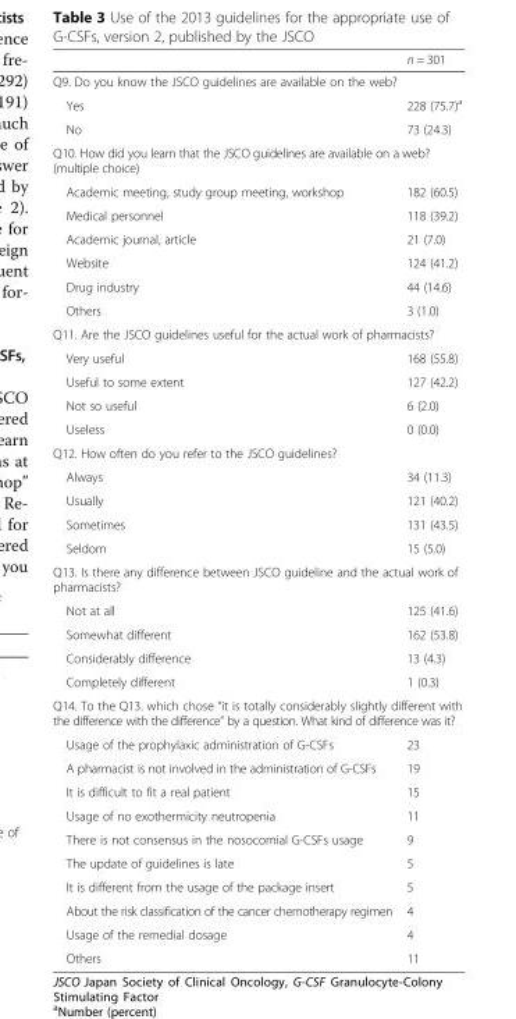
<table><thead><tr><td></td><td>n = 301</td></tr></thead><tbody><tr><td colspan="2">Q9. Do you know the JSCO guidelines are available on the web?</td></tr><tr><td>Yes</td><td>228 (75.7)<sup>a</sup></td></tr><tr><td>No</td><td>73 (24.3)</td></tr><tr><td colspan="2">Q10. How did you learn that the JSCO guidelines are available on a web? (multiple choice)</td></tr><tr><td>Academic meeting, study group meeting, workshop</td><td>182 (60.5)</td></tr><tr><td>Medical personnel</td><td>118 (39.2)</td></tr><tr><td>Academic journal, article</td><td>21 (7.0)</td></tr><tr><td>Website</td><td>124 (41.2)</td></tr><tr><td>Drug industry</td><td>44 (14.6)</td></tr><tr><td>Others</td><td>3 (1.0)</td></tr><tr><td colspan="2">Q11. Are the JSCO guidelines useful for the actual work of pharmacists?</td></tr><tr><td>Very useful</td><td>168 (55.8)</td></tr><tr><td>Useful to some extent</td><td>127 (42.2)</td></tr><tr><td>Not so useful</td><td>6 (2.0)</td></tr><tr><td>Useless</td><td>0 (0.0)</td></tr><tr><td colspan="2">Q12. How often do you refer to the JSCO guidelines?</td></tr><tr><td>Always</td><td>34 (11.3)</td></tr><tr><td>Usually</td><td>121 (40.2)</td></tr><tr><td>Sometimes</td><td>131 (43.5)</td></tr><tr><td>Seldom</td><td>15 (5.0)</td></tr><tr><td colspan="2">Q13. Is there any difference between JSCO guideline and the actual work of pharmacists?</td></tr><tr><td>Not at all</td><td>125 (41.6)</td></tr><tr><td>Somewhat different</td><td>162 (53.8)</td></tr><tr><td>Considerably difference</td><td>13 (4.3)</td></tr><tr><td>Completely different</td><td>1 (0.3)</td></tr><tr><td colspan="2">Q14. To the Q13. which chose “it is totally considerably slightly different with the difference with the difference” by a question. What kind of difference was it?</td></tr><tr><td>Usage of the prophylaxic administration of G-CSFs</td><td>23</td></tr><tr><td>A pharmacist is not involved in the administration of G-CSFs</td><td>19</td></tr><tr><td>It is difficult to fit a real patient</td><td>15</td></tr><tr><td>Usage of no exothermicity neutropenia</td><td>11</td></tr><tr><td>There is not consensus in the nosocomial G-CSFs usage</td><td>9</td></tr><tr><td>The update of guidelines is late</td><td>5</td></tr><tr><td>It is different from the usage of the package insert</td><td>5</td></tr><tr><td>About the risk classification of the cancer chemotherapy regimen</td><td>4</td></tr><tr><td>Usage of the remedial dosage</td><td>4</td></tr><tr><td>Others</td><td>11</td></tr></tbody></table>